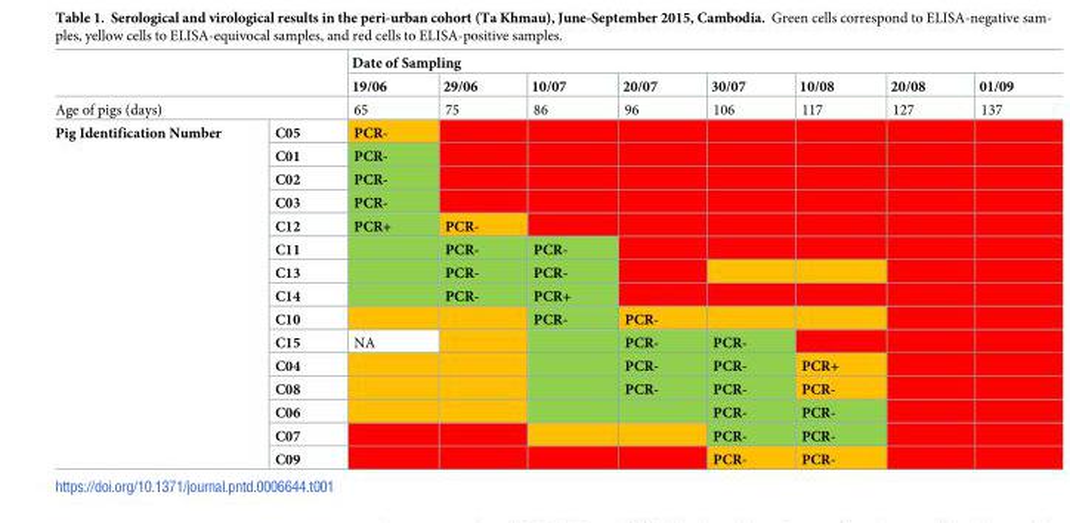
<table><thead><tr><td rowspan="2"></td><td rowspan="2"></td><td colspan="8">Date of Sampling</td></tr><tr><td>19/06</td><td>29/06</td><td>10/07</td><td>20/07</td><td>30/07</td><td>10/08</td><td>20/08</td><td>01/09</td></tr></thead><tbody><tr><td colspan="2">Age of pigs (days)</td><td>65</td><td>75</td><td>86</td><td>96</td><td>106</td><td>117</td><td>127</td><td>137</td></tr><tr><td rowspan="15">Pig Identification Number</td><td>C05</td><td>PCR-</td><td></td><td></td><td></td><td></td><td></td><td></td><td></td></tr><tr><td>C01</td><td>PCR-</td><td></td><td></td><td></td><td></td><td></td><td></td><td></td></tr><tr><td>C02</td><td>PCR-</td><td></td><td></td><td></td><td></td><td></td><td></td><td></td></tr><tr><td>C03</td><td>PCR-</td><td></td><td></td><td></td><td></td><td></td><td></td><td></td></tr><tr><td>C12</td><td>PCR+</td><td>PCR-</td><td></td><td></td><td></td><td></td><td></td><td></td></tr><tr><td>C11</td><td></td><td>PCR-</td><td>PCR-</td><td></td><td></td><td></td><td></td><td></td></tr><tr><td>C13</td><td></td><td>PCR-</td><td>PCR-</td><td></td><td></td><td></td><td></td><td></td></tr><tr><td>C14</td><td></td><td>PCR-</td><td>PCR+</td><td></td><td></td><td></td><td></td><td></td></tr><tr><td>C10</td><td></td><td></td><td>PCR-</td><td>PCR-</td><td></td><td></td><td></td><td></td></tr><tr><td>C15</td><td>NA</td><td></td><td></td><td>PCR-</td><td>PCR-</td><td></td><td></td><td></td></tr><tr><td>C04</td><td></td><td></td><td></td><td>PCR-</td><td>PCR-</td><td>PCR+</td><td></td><td></td></tr><tr><td>C08</td><td></td><td></td><td></td><td>PCR-</td><td>PCR-</td><td>PCR-</td><td></td><td></td></tr><tr><td>C06</td><td></td><td></td><td></td><td></td><td>PCR-</td><td>PCR-</td><td></td><td></td></tr><tr><td>C07</td><td></td><td></td><td></td><td></td><td>PCR-</td><td>PCR-</td><td></td><td></td></tr><tr><td>C09</td><td></td><td></td><td></td><td></td><td>PCR-</td><td>PCR-</td><td></td><td></td></tr></tbody></table>